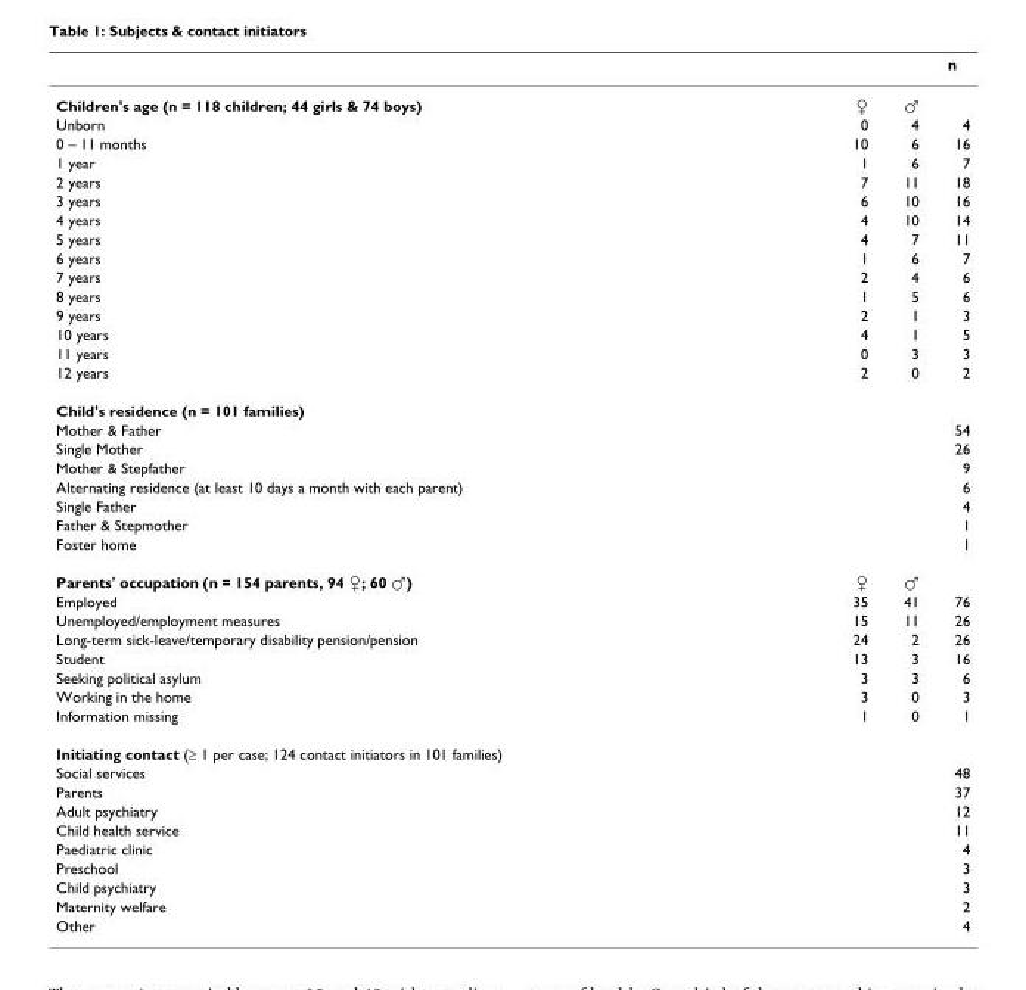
<table><thead><tr><td></td><td></td><td></td><td>n</td></tr></thead><tbody><tr><td>Children&#x27;s age (n = 118 children; 44 girls &amp; 74 boys)</td><td>♀</td><td>♂</td><td></td></tr><tr><td>Unborn</td><td>0</td><td>4</td><td>4</td></tr><tr><td>0 – 11 months</td><td>10</td><td>6</td><td>16</td></tr><tr><td>1 year</td><td>1</td><td>6</td><td>7</td></tr><tr><td>2 years</td><td>7</td><td>11</td><td>18</td></tr><tr><td>3 years</td><td>6</td><td>10</td><td>16</td></tr><tr><td>4 years</td><td>4</td><td>10</td><td>14</td></tr><tr><td>5 years</td><td>4</td><td>7</td><td>11</td></tr><tr><td>6 years</td><td>1</td><td>6</td><td>7</td></tr><tr><td>7 years</td><td>2</td><td>4</td><td>6</td></tr><tr><td>8 years</td><td>1</td><td>5</td><td>6</td></tr><tr><td>9 years</td><td>2</td><td>1</td><td>3</td></tr><tr><td>10 years</td><td>4</td><td>1</td><td>5</td></tr><tr><td>11 years</td><td>0</td><td>3</td><td>3</td></tr><tr><td>12 years</td><td>2</td><td>0</td><td>2</td></tr><tr><td colspan="4">Child&#x27;s residence (n = 101 families)</td></tr><tr><td>Mother &amp; Father</td><td></td><td></td><td>54</td></tr><tr><td>Single Mother</td><td></td><td></td><td>26</td></tr><tr><td>Mother &amp; Stepfather</td><td></td><td></td><td>9</td></tr><tr><td>Alternating residence (at least 10 days a month with each parent)</td><td></td><td></td><td>6</td></tr><tr><td>Single Father</td><td></td><td></td><td>4</td></tr><tr><td>Father &amp; Stepmother</td><td></td><td></td><td>1</td></tr><tr><td>Foster home</td><td></td><td></td><td>1</td></tr><tr><td>Parents&#x27; occupation (n = 154 parents, 94 ♀; 60 ♂)</td><td>♀</td><td>♂</td><td></td></tr><tr><td>Employed</td><td>35</td><td>41</td><td>76</td></tr><tr><td>Unemployed/employment measures</td><td>15</td><td>11</td><td>26</td></tr><tr><td>Long-term sick-leave/temporary disability pension/pension</td><td>24</td><td>2</td><td>26</td></tr><tr><td>Student</td><td>13</td><td>3</td><td>16</td></tr><tr><td>Seeking political asylum</td><td>3</td><td>3</td><td>6</td></tr><tr><td>Working in the home</td><td>3</td><td>0</td><td>3</td></tr><tr><td>Information missing</td><td>1</td><td>0</td><td>1</td></tr><tr><td colspan="4">Initiating contact (≥ 1 per case; 124 contact initiators in 101 families)</td></tr><tr><td>Social services</td><td></td><td></td><td>48</td></tr><tr><td>Parents</td><td></td><td></td><td>37</td></tr><tr><td>Adult psychiatry</td><td></td><td></td><td>12</td></tr><tr><td>Child health service</td><td></td><td></td><td>11</td></tr><tr><td>Paediatric clinic</td><td></td><td></td><td>4</td></tr><tr><td>Preschool</td><td></td><td></td><td>3</td></tr><tr><td>Child psychiatry</td><td></td><td></td><td>3</td></tr><tr><td>Maternity welfare</td><td></td><td></td><td>2</td></tr><tr><td>Other</td><td></td><td></td><td>4</td></tr></tbody></table>